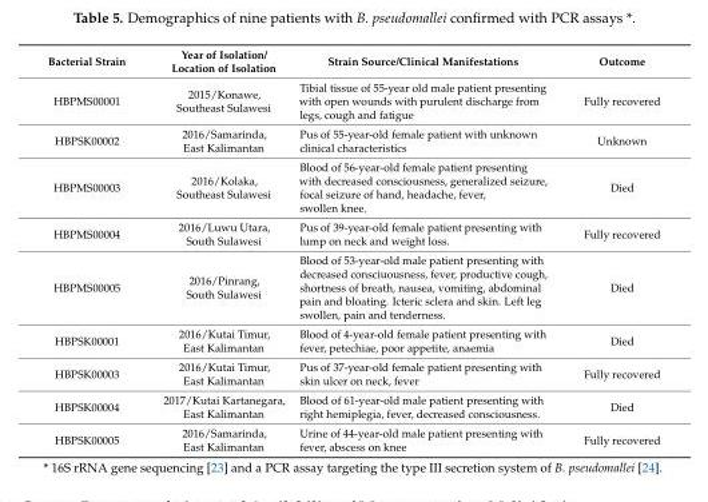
<table><thead><tr><td>Bacterial Strain</td><td>Year of Isolation/ Location of Isolation</td><td>Strain Source/Clinical Manifestations</td><td>Outcome</td></tr></thead><tbody><tr><td>HBPMS00001</td><td>2015/Konawe, Southeast Sulawesi</td><td>Tibial tissue of 55-year old male patient presenting with open wounds with purulent discharge from legs, cough and fatigue</td><td>Fully recovered</td></tr><tr><td>HBPSK00002</td><td>2016/Samarinda, East Kalimantan</td><td>Pus of 55-year-old female patient with unknown clinical characteristics</td><td>Unknown</td></tr><tr><td>HBPMS00003</td><td>2016/Kolaka, Southeast Sulawesi</td><td>Blood of 56-year-old female patient presenting with decreased consciousness, generalized seizure, focal seizure of hand, headache, fever, swollen knee.</td><td>Died</td></tr><tr><td>HBPMS00004</td><td>2016/Luwu Utara, South Sulawesi</td><td>Pus of 39-year-old female patient presenting with lump on neck and weight loss.</td><td>Fully recovered</td></tr><tr><td>HBPMS00005</td><td>2016/Pinrang, South Sulawesi</td><td>Blood of 53-year-old male patient presenting with decreased consciuousness, fever, productive cough, shortness of breath, nausea, vomiting, abdominal pain and bloating. Icteric sclera and skin. Left leg swollen, pain and tenderness.</td><td>Died</td></tr><tr><td>HBPSK00001</td><td>2016/Kutai Timur, East Kalimantan</td><td>Blood of 4-year-old female patient presenting with fever, petechiae, poor appetite, anaemia</td><td>Died</td></tr><tr><td>HBPSK00003</td><td>2016/Kutai Timur, East Kalimantan</td><td>Pus of 37-year-old female patient presenting with skin ulcer on neck, fever</td><td>Fully recovered</td></tr><tr><td>HBPSK00004</td><td>2017/Kutai Kartanegara, East Kalimantan</td><td>Blood of 61-year-old male patient presenting with right hemiplegia, fever, decreased consciousness.</td><td>Died</td></tr><tr><td>HBPSK00005</td><td>2016/Samarinda, East Kalimantan</td><td>Urine of 44-year-old male patient presenting with fever, abscess on knee</td><td>Fully recovered</td></tr></tbody></table>